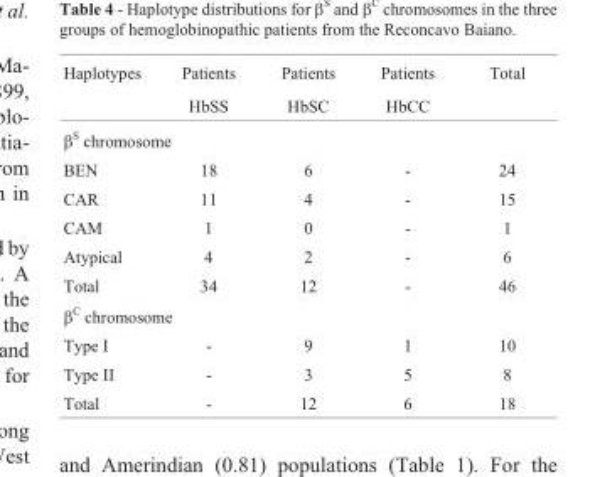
<table><thead><tr><td rowspan="2">Haplotypes</td><td rowspan="2">Patients HbSS</td><td rowspan="2">Patients HbSC</td><td rowspan="2">Patients HbCC</td><td rowspan="2">Total</td></tr><tr></tr></thead><tbody><tr><td colspan="5">β<sup>S</sup> chromosome</td></tr><tr><td>BEN</td><td>18</td><td>6</td><td>-</td><td>24</td></tr><tr><td>CAR</td><td>11</td><td>4</td><td>-</td><td>15</td></tr><tr><td>CAM</td><td>1</td><td>0</td><td>-</td><td>1</td></tr><tr><td>Atypical</td><td>4</td><td>2</td><td>-</td><td>6</td></tr><tr><td>Total</td><td>34</td><td>12</td><td>-</td><td>46</td></tr><tr><td colspan="5">β<sup>C</sup> chromosome</td></tr><tr><td>Type I</td><td>-</td><td>9</td><td>1</td><td>10</td></tr><tr><td>Type II</td><td>-</td><td>3</td><td>5</td><td>8</td></tr><tr><td>Total</td><td>-</td><td>12</td><td>6</td><td>18</td></tr></tbody></table>